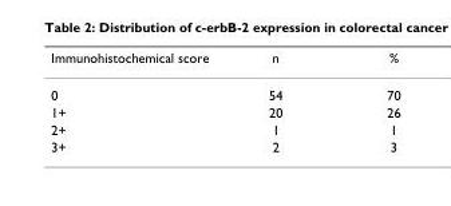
<table><thead><tr><td>Immunohistochemical score</td><td>n</td><td>%</td></tr></thead><tbody><tr><td>0</td><td>54</td><td>70</td></tr><tr><td>1+</td><td>20</td><td>26</td></tr><tr><td>2+</td><td>1</td><td>1</td></tr><tr><td>3+</td><td>2</td><td>3</td></tr></tbody></table>